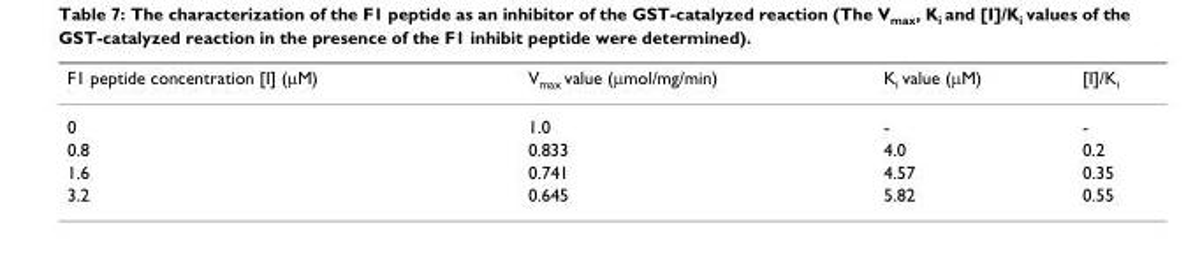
<table><thead><tr><td>F1 peptide concentration [I] (μM)</td><td>V<sub>max</sub> value (μmol/mg/min)</td><td>K<sub>i</sub> value (μM)</td><td>[I]/K<sub>i</sub></td></tr></thead><tbody><tr><td>0</td><td>1.0</td><td>-</td><td>-</td></tr><tr><td>0.8</td><td>0.833</td><td>4.0</td><td>0.2</td></tr><tr><td>1.6</td><td>0.741</td><td>4.57</td><td>0.35</td></tr><tr><td>3.2</td><td>0.645</td><td>5.82</td><td>0.55</td></tr></tbody></table>